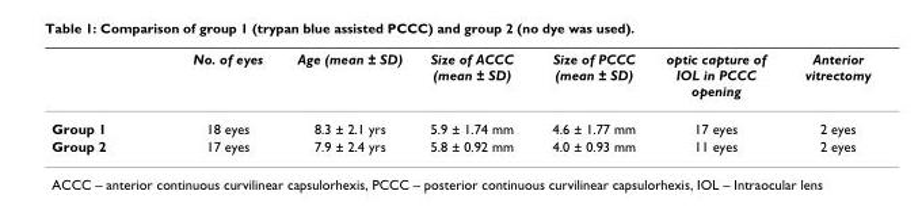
<table><thead><tr><td></td><td>No. of eyes</td><td>Age (mean ± SD)</td><td>Size of ACCC (mean ± SD)</td><td>Size of PCCC (mean ± SD)</td><td>optic capture of IOL in PCCC opening</td><td>Anterior vitrectomy</td></tr></thead><tbody><tr><td>Group 1</td><td>18 eyes</td><td>8.3 ± 2.1 yrs</td><td>5.9 ± 1.74 mm</td><td>4.6 ± 1.77 mm</td><td>17 eyes</td><td>2 eyes</td></tr><tr><td>Group 2</td><td>17 eyes</td><td>7.9 ± 2.4 yrs</td><td>5.8 ± 0.92 mm</td><td>4.0 ± 0.93 mm</td><td>11 eyes</td><td>2 eyes</td></tr></tbody></table>